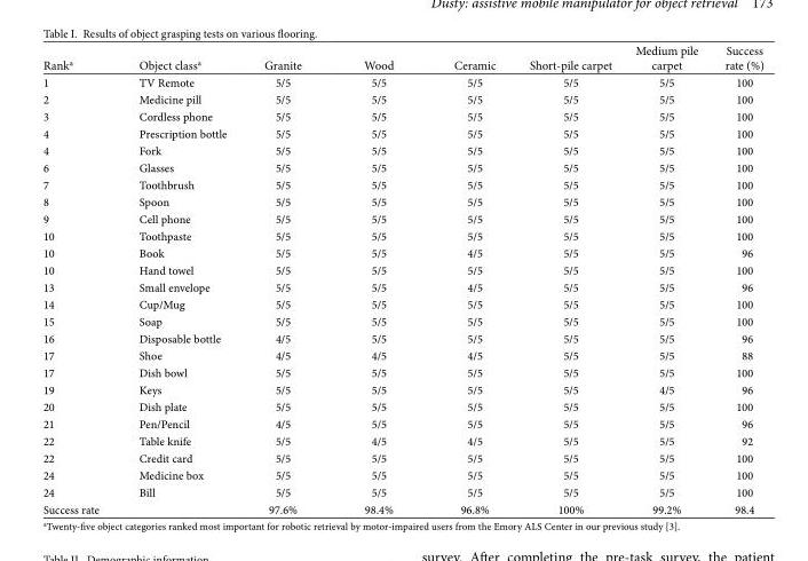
<table><thead><tr><td>Rank<sup>a</sup></td><td>Object class<sup>a</sup></td><td>Granite</td><td>Wood</td><td>Ceramic</td><td>Short-pile carpet</td><td>Medium pile carpet</td><td>Success rate (%)</td></tr></thead><tbody><tr><td>1</td><td>TV Remote</td><td>5/5</td><td>5/5</td><td>5/5</td><td>5/5</td><td>5/5</td><td>100</td></tr><tr><td>2</td><td>Medicine pill</td><td>5/5</td><td>5/5</td><td>5/5</td><td>5/5</td><td>5/5</td><td>100</td></tr><tr><td>3</td><td>Cordless phone</td><td>5/5</td><td>5/5</td><td>5/5</td><td>5/5</td><td>5/5</td><td>100</td></tr><tr><td>4</td><td>Prescription bottle</td><td>5/5</td><td>5/5</td><td>5/5</td><td>5/5</td><td>5/5</td><td>100</td></tr><tr><td>4</td><td>Fork</td><td>5/5</td><td>5/5</td><td>5/5</td><td>5/5</td><td>5/5</td><td>100</td></tr><tr><td>6</td><td>Glasses</td><td>5/5</td><td>5/5</td><td>5/5</td><td>5/5</td><td>5/5</td><td>100</td></tr><tr><td>7</td><td>Toothbrush</td><td>5/5</td><td>5/5</td><td>5/5</td><td>5/5</td><td>5/5</td><td>100</td></tr><tr><td>8</td><td>Spoon</td><td>5/5</td><td>5/5</td><td>5/5</td><td>5/5</td><td>5/5</td><td>100</td></tr><tr><td>9</td><td>Cell phone</td><td>5/5</td><td>5/5</td><td>5/5</td><td>5/5</td><td>5/5</td><td>100</td></tr><tr><td>10</td><td>Toothpaste</td><td>5/5</td><td>5/5</td><td>5/5</td><td>5/5</td><td>5/5</td><td>100</td></tr><tr><td>10</td><td>Book</td><td>5/5</td><td>5/5</td><td>4/5</td><td>5/5</td><td>5/5</td><td>96</td></tr><tr><td>10</td><td>Hand towel</td><td>5/5</td><td>5/5</td><td>5/5</td><td>5/5</td><td>5/5</td><td>100</td></tr><tr><td>13</td><td>Small envelope</td><td>5/5</td><td>5/5</td><td>4/5</td><td>5/5</td><td>5/5</td><td>96</td></tr><tr><td>14</td><td>Cup/Mug</td><td>5/5</td><td>5/5</td><td>5/5</td><td>5/5</td><td>5/5</td><td>100</td></tr><tr><td>15</td><td>Soap</td><td>5/5</td><td>5/5</td><td>5/5</td><td>5/5</td><td>5/5</td><td>100</td></tr><tr><td>16</td><td>Disposable bottle</td><td>4/5</td><td>5/5</td><td>5/5</td><td>5/5</td><td>5/5</td><td>96</td></tr><tr><td>17</td><td>Shoe</td><td>4/5</td><td>4/5</td><td>4/5</td><td>5/5</td><td>5/5</td><td>88</td></tr><tr><td>17</td><td>Dish bowl</td><td>5/5</td><td>5/5</td><td>5/5</td><td>5/5</td><td>5/5</td><td>100</td></tr><tr><td>19</td><td>Keys</td><td>5/5</td><td>5/5</td><td>5/5</td><td>5/5</td><td>4/5</td><td>96</td></tr><tr><td>20</td><td>Dish plate</td><td>5/5</td><td>5/5</td><td>5/5</td><td>5/5</td><td>5/5</td><td>100</td></tr><tr><td>21</td><td>Pen/Pencil</td><td>4/5</td><td>5/5</td><td>5/5</td><td>5/5</td><td>5/5</td><td>96</td></tr><tr><td>22</td><td>Table knife</td><td>5/5</td><td>4/5</td><td>4/5</td><td>5/5</td><td>5/5</td><td>92</td></tr><tr><td>22</td><td>Credit card</td><td>5/5</td><td>5/5</td><td>5/5</td><td>5/5</td><td>5/5</td><td>100</td></tr><tr><td>24</td><td>Medicine box</td><td>5/5</td><td>5/5</td><td>5/5</td><td>5/5</td><td>5/5</td><td>100</td></tr><tr><td>24</td><td>Bill</td><td>5/5</td><td>5/5</td><td>5/5</td><td>5/5</td><td>5/5</td><td>100</td></tr><tr><td>Success rate</td><td></td><td>97.6%</td><td>98.4%</td><td>96.8%</td><td>100%</td><td>99.2%</td><td>98.4</td></tr></tbody></table>